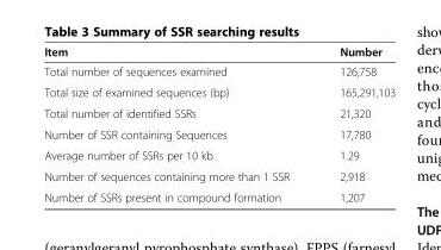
<table><thead><tr><td>Item</td><td>Number</td></tr></thead><tbody><tr><td>Total number of sequences examined</td><td>126,758</td></tr><tr><td>Total size of examined sequences (bp)</td><td>165,291,103</td></tr><tr><td>Total number of identified SSRs</td><td>21,320</td></tr><tr><td>Number of SSR containing Sequences</td><td>17,780</td></tr><tr><td>Average number of SSRs per 10 kb</td><td>1.29</td></tr><tr><td>Number of sequences containing more than 1 SSR</td><td>2,918</td></tr><tr><td>Number of SSRs present in compound formation</td><td>1,207</td></tr></tbody></table>